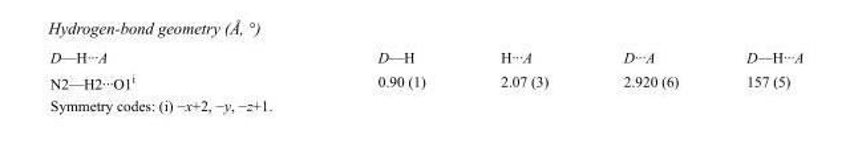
<table><tbody><tr><td>D—H···A</td><td>D—H</td><td>H···A</td><td>D···A</td><td>D—H···A</td></tr><tr><td>N2—H2···O1<sup>i</sup></td><td>0.90 (1)</td><td>2.07 (3)</td><td>2.920 (6)</td><td>157 (5)</td></tr></tbody></table>